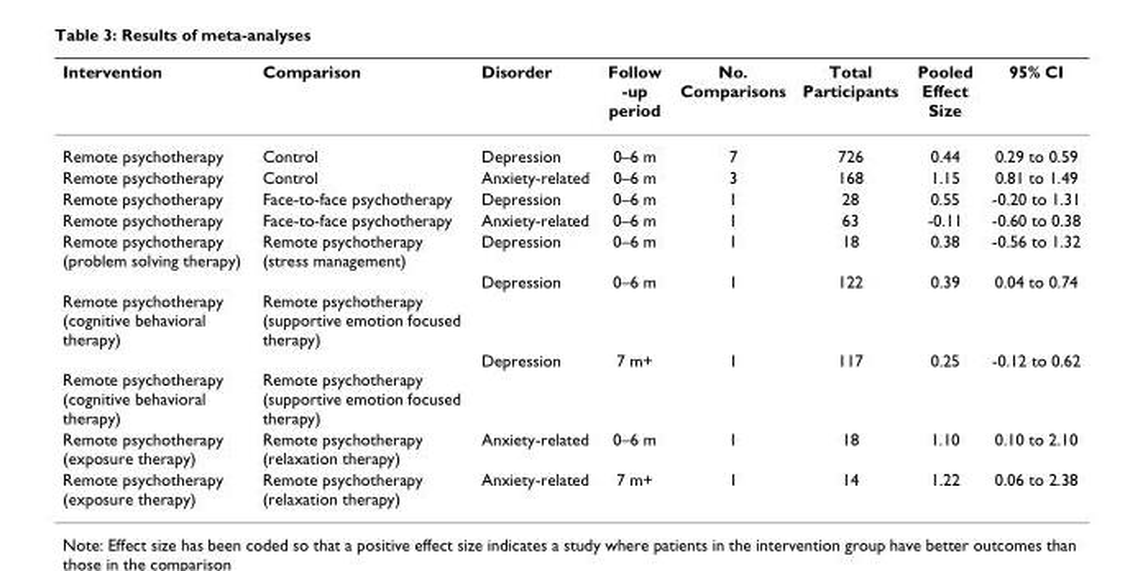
<table><thead><tr><td>Intervention</td><td>Comparison</td><td>Disorder</td><td>Follow -up period</td><td>No. Comparisons</td><td>Total Participants</td><td>Pooled Effect Size</td><td>95% CI</td></tr></thead><tbody><tr><td>Remote psychotherapy</td><td>Control</td><td>Depression</td><td>0–6 m</td><td>7</td><td>726</td><td>0.44</td><td>0.29 to 0.59</td></tr><tr><td>Remote psychotherapy</td><td>Control</td><td>Anxiety-related</td><td>0–6 m</td><td>3</td><td>168</td><td>1.15</td><td>0.81 to 1.49</td></tr><tr><td>Remote psychotherapy</td><td>Face-to-face psychotherapy</td><td>Depression</td><td>0–6 m</td><td>1</td><td>28</td><td>0.55</td><td>-0.20 to 1.31</td></tr><tr><td>Remote psychotherapy</td><td>Face-to-face psychotherapy</td><td>Anxiety-related</td><td>0–6 m</td><td>1</td><td>63</td><td>-0.11</td><td>-0.60 to 0.38</td></tr><tr><td>Remote psychotherapy (problem solving therapy)</td><td>Remote psychotherapy (stress management)</td><td>Depression</td><td>0–6 m</td><td>1</td><td>18</td><td>0.38</td><td>-0.56 to 1.32</td></tr><tr><td>Remote psychotherapy (cognitive behavioral therapy)</td><td>Remote psychotherapy (supportive emotion focused therapy)</td><td>Depression</td><td>0–6 m</td><td>1</td><td>122</td><td>0.39</td><td>0.04 to 0.74</td></tr><tr><td>Remote psychotherapy (cognitive behavioral therapy)</td><td>Remote psychotherapy (supportive emotion focused therapy)</td><td>Depression</td><td>7 m+</td><td>1</td><td>117</td><td>0.25</td><td>-0.12 to 0.62</td></tr><tr><td>Remote psychotherapy (exposure therapy)</td><td>Remote psychotherapy (relaxation therapy)</td><td>Anxiety-related</td><td>0–6 m</td><td>1</td><td>18</td><td>1.10</td><td>0.10 to 2.10</td></tr><tr><td>Remote psychotherapy (exposure therapy)</td><td>Remote psychotherapy (relaxation therapy)</td><td>Anxiety-related</td><td>7 m+</td><td>1</td><td>14</td><td>1.22</td><td>0.06 to 2.38</td></tr></tbody></table>